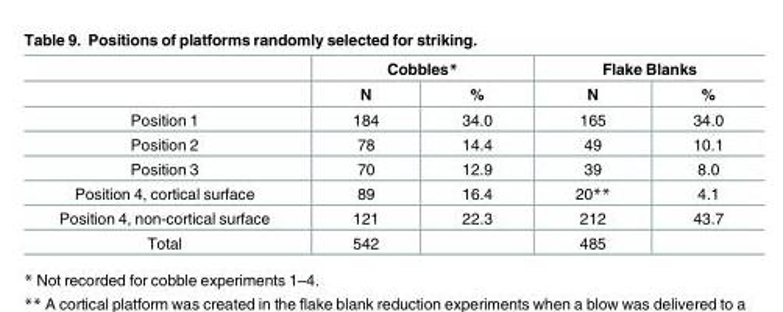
<table><thead><tr><td rowspan="2"></td><td colspan="2">Cobbles*</td><td colspan="2">Flake Blanks</td></tr><tr><td>N</td><td>%</td><td>N</td><td>%</td></tr></thead><tbody><tr><td>Position 1</td><td>184</td><td>34.0</td><td>165</td><td>34.0</td></tr><tr><td>Position 2</td><td>78</td><td>14.4</td><td>49</td><td>10.1</td></tr><tr><td>Position 3</td><td>70</td><td>12.9</td><td>39</td><td>8.0</td></tr><tr><td>Position 4, cortical surface</td><td>89</td><td>16.4</td><td>20**</td><td>4.1</td></tr><tr><td>Position 4, non-cortical surface</td><td>121</td><td>22.3</td><td>212</td><td>43.7</td></tr><tr><td>Total</td><td>542</td><td></td><td>485</td><td></td></tr></tbody></table>